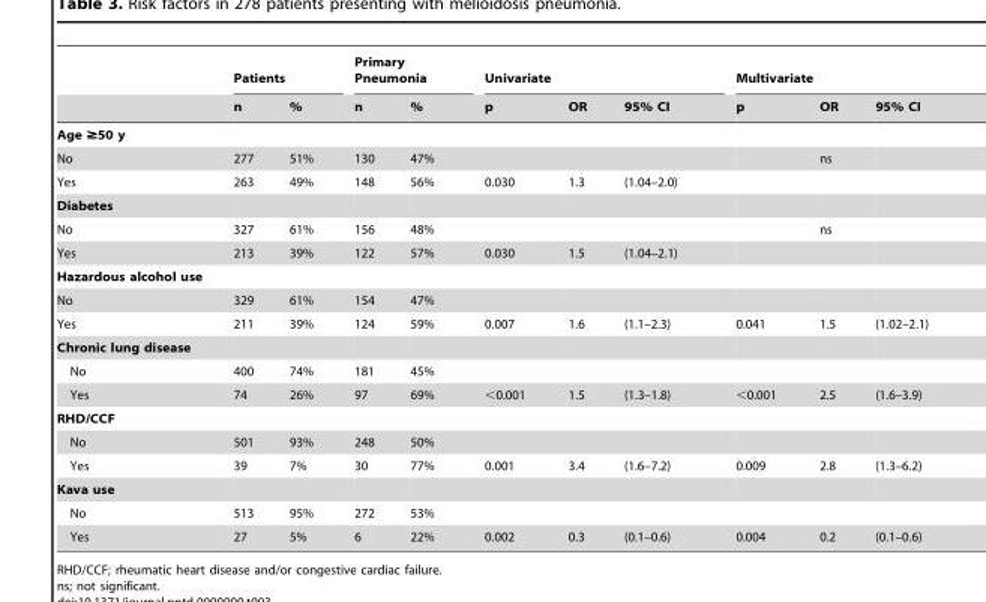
<table><thead><tr><td rowspan="2"></td><td colspan="2">Patients</td><td colspan="2">Primary Pneumonia</td><td colspan="3">Univariate</td><td colspan="3">Multivariate</td></tr><tr><td>n</td><td>%</td><td>n</td><td>%</td><td>p</td><td>OR</td><td>95% CI</td><td>p</td><td>OR</td><td>95% CI</td></tr></thead><tbody><tr><td colspan="11">Age ≥50 y</td></tr><tr><td>No</td><td>277</td><td>51%</td><td>130</td><td>47%</td><td></td><td></td><td></td><td></td><td>ns</td><td></td></tr><tr><td>Yes</td><td>263</td><td>49%</td><td>148</td><td>56%</td><td>0.030</td><td>1.3</td><td>(1.04–2.0)</td><td></td><td></td><td></td></tr><tr><td colspan="11">Diabetes</td></tr><tr><td>No</td><td>327</td><td>61%</td><td>156</td><td>48%</td><td></td><td></td><td></td><td></td><td>ns</td><td></td></tr><tr><td>Yes</td><td>213</td><td>39%</td><td>122</td><td>57%</td><td>0.030</td><td>1.5</td><td>(1.04–2.1)</td><td></td><td></td><td></td></tr><tr><td colspan="11">Hazardous alcohol use</td></tr><tr><td>No</td><td>329</td><td>61%</td><td>154</td><td>47%</td><td></td><td></td><td></td><td></td><td></td><td></td></tr><tr><td>Yes</td><td>211</td><td>39%</td><td>124</td><td>59%</td><td>0.007</td><td>1.6</td><td>(1.1–2.3)</td><td>0.041</td><td>1.5</td><td>(1.02–2.1)</td></tr><tr><td colspan="11">Chronic lung disease</td></tr><tr><td>No</td><td>400</td><td>74%</td><td>181</td><td>45%</td><td></td><td></td><td></td><td></td><td></td><td></td></tr><tr><td>Yes</td><td>74</td><td>26%</td><td>97</td><td>69%</td><td>&lt;0.001</td><td>1.5</td><td>(1.3–1.8)</td><td>&lt;0.001</td><td>2.5</td><td>(1.6–3.9)</td></tr><tr><td colspan="11">RHD/CCF</td></tr><tr><td>No</td><td>501</td><td>93%</td><td>248</td><td>50%</td><td></td><td></td><td></td><td></td><td></td><td></td></tr><tr><td>Yes</td><td>39</td><td>7%</td><td>30</td><td>77%</td><td>0.001</td><td>3.4</td><td>(1.6–7.2)</td><td>0.009</td><td>2.8</td><td>(1.3–6.2)</td></tr><tr><td colspan="11">Kava use</td></tr><tr><td>No</td><td>513</td><td>95%</td><td>272</td><td>53%</td><td></td><td></td><td></td><td></td><td></td><td></td></tr><tr><td>Yes</td><td>27</td><td>5%</td><td>6</td><td>22%</td><td>0.002</td><td>0.3</td><td>(0.1–0.6)</td><td>0.004</td><td>0.2</td><td>(0.1–0.6)</td></tr></tbody></table>